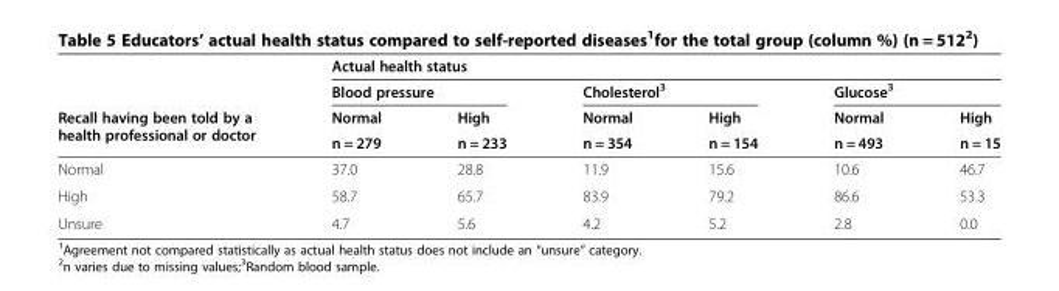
<table><thead><tr><td rowspan="4">Recall having been told by a health professional or doctor</td><td colspan="6">Actual health status</td></tr><tr><td colspan="2">Blood pressure</td><td colspan="2">Cholesterol<sup>3</sup></td><td colspan="2">Glucose<sup>3</sup></td></tr><tr><td rowspan="2">Normal n = 279</td><td rowspan="2">High n = 233</td><td rowspan="2">Normal n = 354</td><td rowspan="2">High n = 154</td><td rowspan="2">Normal n = 493</td><td rowspan="2">High n = 15</td></tr><tr></tr></thead><tbody><tr><td>Normal</td><td>37.0</td><td>28.8</td><td>11.9</td><td>15.6</td><td>10.6</td><td>46.7</td></tr><tr><td>High</td><td>58.7</td><td>65.7</td><td>83.9</td><td>79.2</td><td>86.6</td><td>53.3</td></tr><tr><td>Unsure</td><td>4.7</td><td>5.6</td><td>4.2</td><td>5.2</td><td>2.8</td><td>0.0</td></tr></tbody></table>